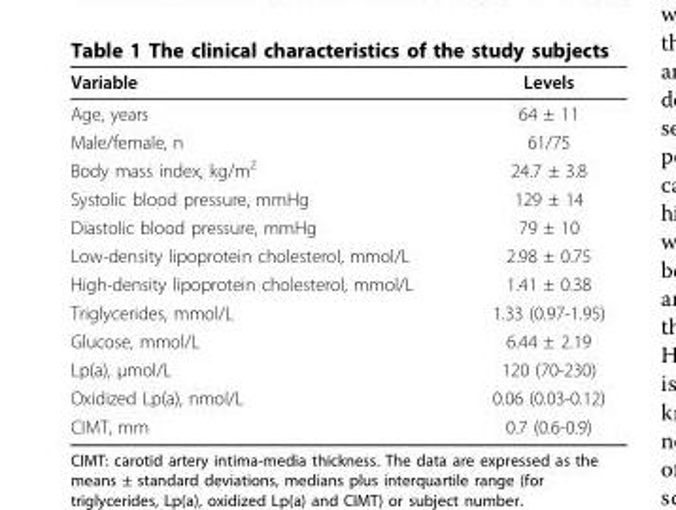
<table><thead><tr><td>Variable</td><td>Levels</td></tr></thead><tbody><tr><td>Age, years</td><td>64 ± 11</td></tr><tr><td>Male/female, n</td><td>61/75</td></tr><tr><td>Body mass index, kg/m<sup>2</sup></td><td>24.7 ± 3.8</td></tr><tr><td>Systolic blood pressure, mmHg</td><td>129 ± 14</td></tr><tr><td>Diastolic blood pressure, mmHg</td><td>79 ± 10</td></tr><tr><td>Low-density lipoprotein cholesterol, mmol/L</td><td>2.98 ± 0.75</td></tr><tr><td>High-density lipoprotein cholesterol, mmol/L</td><td>1.41 ± 0.38</td></tr><tr><td>Triglycerides, mmol/L</td><td>1.33 (0.97-1.95)</td></tr><tr><td>Glucose, mmol/L</td><td>6.44 ± 2.19</td></tr><tr><td>Lp(a), μmol/L</td><td>120 (70-230)</td></tr><tr><td>Oxidized Lp(a), nmol/L</td><td>0.06 (0.03-0.12)</td></tr><tr><td>CIMT, mm</td><td>0.7 (0.6-0.9)</td></tr></tbody></table>